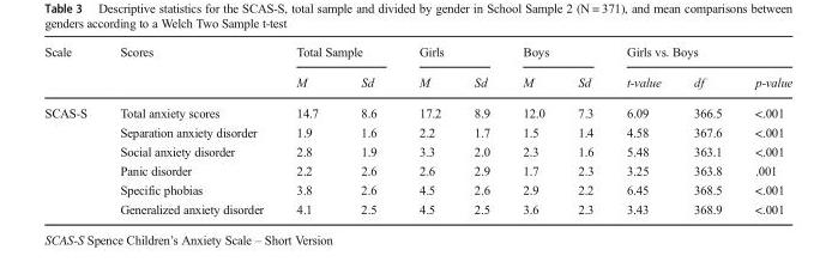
<table><thead><tr><td rowspan="2">Scale</td><td rowspan="2">Scores</td><td colspan="2">Total Sample</td><td colspan="2">Girls</td><td colspan="2">Boys</td><td colspan="3">Girls vs. Boys</td></tr><tr><td>M</td><td>Sd</td><td>M</td><td>Sd</td><td>M</td><td>Sd</td><td>t-value</td><td>df</td><td>p-value</td></tr></thead><tbody><tr><td rowspan="6">SCAS-S</td><td>Total anxiety scores</td><td>14.7</td><td>8.6</td><td>17.2</td><td>8.9</td><td>12.0</td><td>7.3</td><td>6.09</td><td>366.5</td><td>&lt;.001</td></tr><tr><td>Separation anxiety disorder</td><td>1.9</td><td>1.6</td><td>2.2</td><td>1.7</td><td>1.5</td><td>1.4</td><td>4.58</td><td>367.6</td><td>&lt;.001</td></tr><tr><td>Social anxiety disorder</td><td>2.8</td><td>1.9</td><td>3.3</td><td>2.0</td><td>2.3</td><td>1.6</td><td>5.48</td><td>363.1</td><td>&lt;.001</td></tr><tr><td>Panic disorder</td><td>2.2</td><td>2.6</td><td>2.6</td><td>2.9</td><td>1.7</td><td>2.3</td><td>3.25</td><td>363.8</td><td>.001</td></tr><tr><td>Specific phobias</td><td>3.8</td><td>2.6</td><td>4.5</td><td>2.6</td><td>2.9</td><td>2.2</td><td>6.45</td><td>368.5</td><td>&lt;.001</td></tr><tr><td>Generalized anxiety disorder</td><td>4.1</td><td>2.5</td><td>4.5</td><td>2.5</td><td>3.6</td><td>2.3</td><td>3.43</td><td>368.9</td><td>&lt;.001</td></tr></tbody></table>